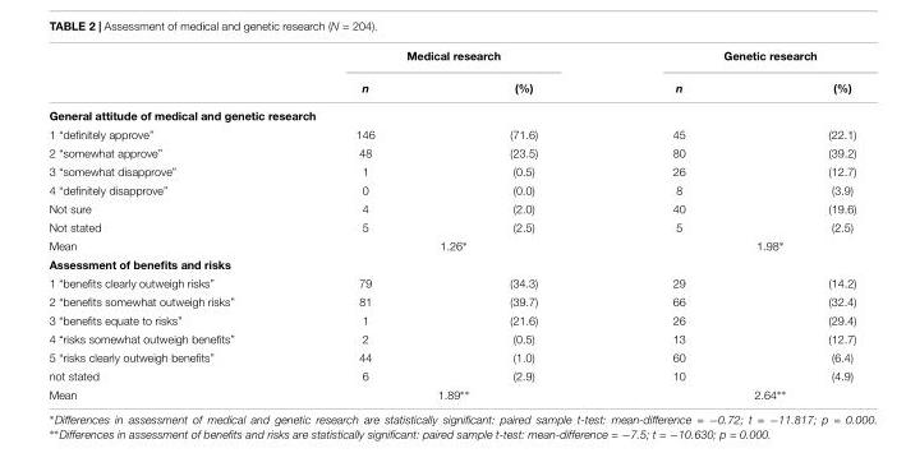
<table><thead><tr><td rowspan="2"></td><td colspan="2">Medical research</td><td colspan="2">Genetic research</td></tr><tr><td>n</td><td>(%)</td><td>n</td><td>(%)</td></tr></thead><tbody><tr><td colspan="5">General attitude of medical and genetic research</td></tr><tr><td>1 “definitely approve”</td><td>146</td><td>(71.6)</td><td>45</td><td>(22.1)</td></tr><tr><td>2 “somewhat approve”</td><td>48</td><td>(23.5)</td><td>80</td><td>(39.2)</td></tr><tr><td>3 “somewhat disapprove”</td><td>1</td><td>(0.5)</td><td>26</td><td>(12.7)</td></tr><tr><td>4 “definitely disapprove”</td><td>0</td><td>(0.0)</td><td>8</td><td>(3.9)</td></tr><tr><td>Not sure</td><td>4</td><td>(2.0)</td><td>40</td><td>(19.6)</td></tr><tr><td>Not stated</td><td>5</td><td>(2.5)</td><td>5</td><td>(2.5)</td></tr><tr><td>Mean</td><td colspan="2">1.26∗</td><td colspan="2">1.98∗</td></tr><tr><td colspan="5">Assessment of benefits and risks</td></tr><tr><td>1 “benefits clearly outweigh risks”</td><td>79</td><td>(34.3)</td><td>29</td><td>(14.2)</td></tr><tr><td>2 “benefits somewhat outweigh risks”</td><td>81</td><td>(39.7)</td><td>66</td><td>(32.4)</td></tr><tr><td>3 “benefits equate to risks”</td><td>1</td><td>(21.6)</td><td>26</td><td>(29.4)</td></tr><tr><td>4 “risks somewhat outweigh benefits”</td><td>2</td><td>(0.5)</td><td>13</td><td>(12.7)</td></tr><tr><td>5 “risks clearly outweigh benefits”</td><td>44</td><td>(1.0)</td><td>60</td><td>(6.4)</td></tr><tr><td>not stated</td><td>6</td><td>(2.9)</td><td>10</td><td>(4.9)</td></tr><tr><td>Mean</td><td colspan="2">1.89∗∗</td><td colspan="2">2.64∗∗</td></tr></tbody></table>